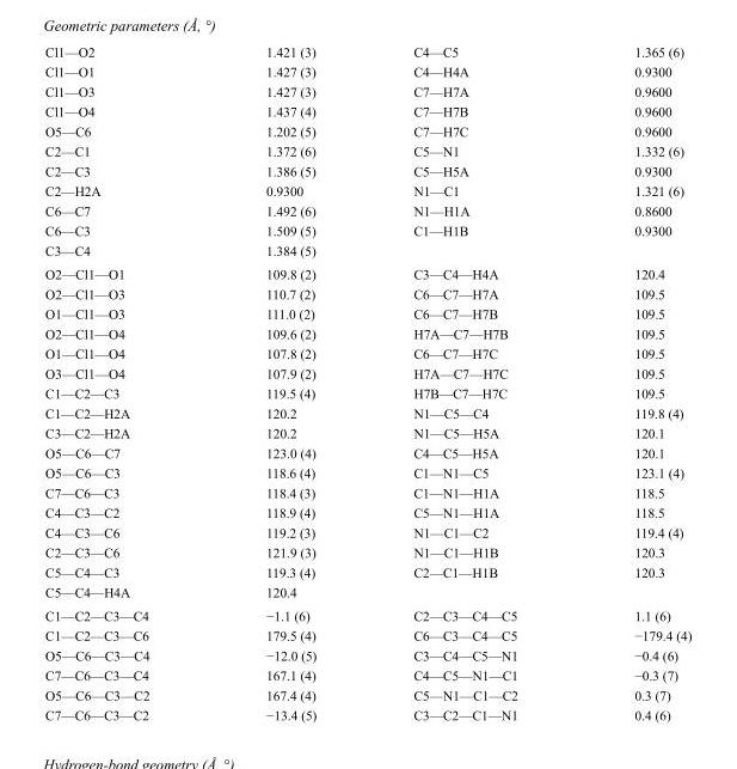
<table><tbody><tr><td>Cl1—O2</td><td>1.421 (3)</td><td>C4—C5</td><td>1.365 (6)</td></tr><tr><td>Cl1—O1</td><td>1.427 (3)</td><td>C4—H4A</td><td>0.9300</td></tr><tr><td>Cl1—O3</td><td>1.427 (3)</td><td>C7—H7A</td><td>0.9600</td></tr><tr><td>Cl1—O4</td><td>1.437 (4)</td><td>C7—H7B</td><td>0.9600</td></tr><tr><td>O5—C6</td><td>1.202 (5)</td><td>C7—H7C</td><td>0.9600</td></tr><tr><td>C2—C1</td><td>1.372 (6)</td><td>C5—N1</td><td>1.332 (6)</td></tr><tr><td>C2—C3</td><td>1.386 (5)</td><td>C5—H5A</td><td>0.9300</td></tr><tr><td>C2—H2A</td><td>0.9300</td><td>N1—C1</td><td>1.321 (6)</td></tr><tr><td>C6—C7</td><td>1.492 (6)</td><td>N1—H1A</td><td>0.8600</td></tr><tr><td>C6—C3</td><td>1.509 (5)</td><td>C1—H1B</td><td>0.9300</td></tr><tr><td>C3—C4</td><td>1.384 (5)</td><td></td><td></td></tr><tr><td>O2—Cl1—O1</td><td>109.8 (2)</td><td>C3—C4—H4A</td><td>120.4</td></tr><tr><td>O2—Cl1—O3</td><td>110.7 (2)</td><td>C6—C7—H7A</td><td>109.5</td></tr><tr><td>O1—Cl1—O3</td><td>111.0 (2)</td><td>C6—C7—H7B</td><td>109.5</td></tr><tr><td>O2—Cl1—O4</td><td>109.6 (2)</td><td>H7A—C7—H7B</td><td>109.5</td></tr><tr><td>O1—Cl1—O4</td><td>107.8 (2)</td><td>C6—C7—H7C</td><td>109.5</td></tr><tr><td>O3—Cl1—O4</td><td>107.9 (2)</td><td>H7A—C7—H7C</td><td>109.5</td></tr><tr><td>C1—C2—C3</td><td>119.5 (4)</td><td>H7B—C7—H7C</td><td>109.5</td></tr><tr><td>C1—C2—H2A</td><td>120.2</td><td>N1—C5—C4</td><td>119.8 (4)</td></tr><tr><td>C3—C2—H2A</td><td>120.2</td><td>N1—C5—H5A</td><td>120.1</td></tr><tr><td>O5—C6—C7</td><td>123.0 (4)</td><td>C4—C5—H5A</td><td>120.1</td></tr><tr><td>O5—C6—C3</td><td>118.6 (4)</td><td>C1—N1—C5</td><td>123.1 (4)</td></tr><tr><td>C7—C6—C3</td><td>118.4 (3)</td><td>C1—N1—H1A</td><td>118.5</td></tr><tr><td>C4—C3—C2</td><td>118.9 (4)</td><td>C5—N1—H1A</td><td>118.5</td></tr><tr><td>C4—C3—C6</td><td>119.2 (3)</td><td>N1—C1—C2</td><td>119.4 (4)</td></tr><tr><td>C2—C3—C6</td><td>121.9 (3)</td><td>N1—C1—H1B</td><td>120.3</td></tr><tr><td>C5—C4—C3</td><td>119.3 (4)</td><td>C2—C1—H1B</td><td>120.3</td></tr><tr><td>C5—C4—H4A</td><td>120.4</td><td></td><td></td></tr><tr><td>C1—C2—C3—C4</td><td>−1.1 (6)</td><td>C2—C3—C4—C5</td><td>1.1 (6)</td></tr><tr><td>C1—C2—C3—C6</td><td>179.5 (4)</td><td>C6—C3—C4—C5</td><td>−179.4 (4)</td></tr><tr><td>O5—C6—C3—C4</td><td>−12.0 (5)</td><td>C3—C4—C5—N1</td><td>−0.4 (6)</td></tr><tr><td>C7—C6—C3—C4</td><td>167.1 (4)</td><td>C4—C5—N1—C1</td><td>−0.3 (7)</td></tr><tr><td>O5—C6—C3—C2</td><td>167.4 (4)</td><td>C5—N1—C1—C2</td><td>0.3 (7)</td></tr><tr><td>C7—C6—C3—C2</td><td>−13.4 (5)</td><td>C3—C2—C1—N1</td><td>0.4 (6)</td></tr></tbody></table>